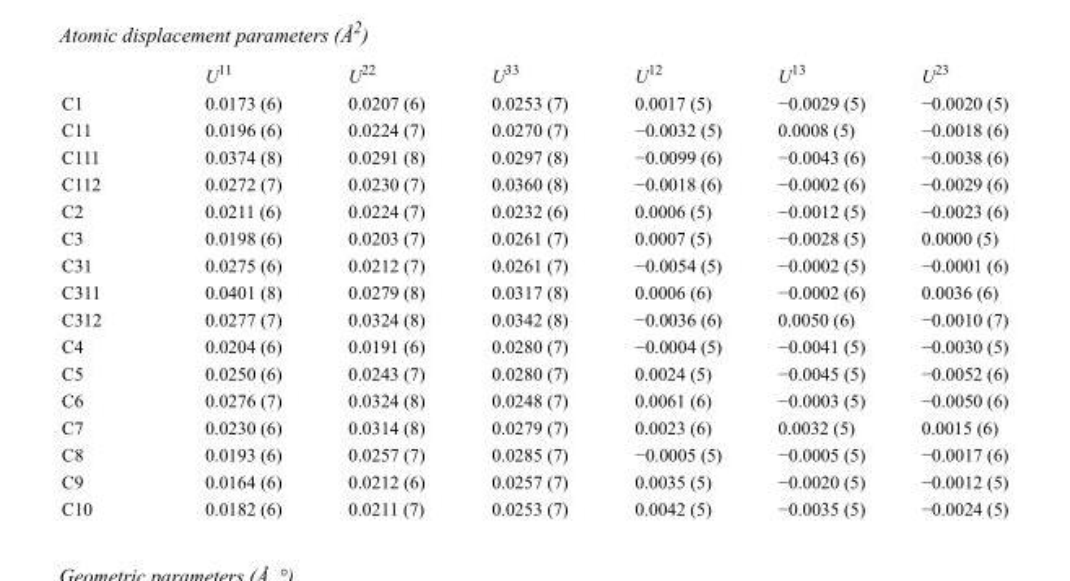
<table><thead><tr><td></td><td>U<sup>11</sup></td><td>U<sup>22</sup></td><td>U<sup>33</sup></td><td>U<sup>12</sup></td><td>U<sup>13</sup></td><td>U<sup>23</sup></td></tr></thead><tbody><tr><td>C1</td><td>0.0173 (6)</td><td>0.0207 (6)</td><td>0.0253 (7)</td><td>0.0017 (5)</td><td>−0.0029 (5)</td><td>−0.0020 (5)</td></tr><tr><td>C11</td><td>0.0196 (6)</td><td>0.0224 (7)</td><td>0.0270 (7)</td><td>−0.0032 (5)</td><td>0.0008 (5)</td><td>−0.0018 (6)</td></tr><tr><td>C111</td><td>0.0374 (8)</td><td>0.0291 (8)</td><td>0.0297 (8)</td><td>−0.0099 (6)</td><td>−0.0043 (6)</td><td>−0.0038 (6)</td></tr><tr><td>C112</td><td>0.0272 (7)</td><td>0.0230 (7)</td><td>0.0360 (8)</td><td>−0.0018 (6)</td><td>−0.0002 (6)</td><td>−0.0029 (6)</td></tr><tr><td>C2</td><td>0.0211 (6)</td><td>0.0224 (7)</td><td>0.0232 (6)</td><td>0.0006 (5)</td><td>−0.0012 (5)</td><td>−0.0023 (6)</td></tr><tr><td>C3</td><td>0.0198 (6)</td><td>0.0203 (7)</td><td>0.0261 (7)</td><td>0.0007 (5)</td><td>−0.0028 (5)</td><td>0.0000 (5)</td></tr><tr><td>C31</td><td>0.0275 (6)</td><td>0.0212 (7)</td><td>0.0261 (7)</td><td>−0.0054 (5)</td><td>−0.0002 (5)</td><td>−0.0001 (6)</td></tr><tr><td>C311</td><td>0.0401 (8)</td><td>0.0279 (8)</td><td>0.0317 (8)</td><td>0.0006 (6)</td><td>−0.0002 (6)</td><td>0.0036 (6)</td></tr><tr><td>C312</td><td>0.0277 (7)</td><td>0.0324 (8)</td><td>0.0342 (8)</td><td>−0.0036 (6)</td><td>0.0050 (6)</td><td>−0.0010 (7)</td></tr><tr><td>C4</td><td>0.0204 (6)</td><td>0.0191 (6)</td><td>0.0280 (7)</td><td>−0.0004 (5)</td><td>−0.0041 (5)</td><td>−0.0030 (5)</td></tr><tr><td>C5</td><td>0.0250 (6)</td><td>0.0243 (7)</td><td>0.0280 (7)</td><td>0.0024 (5)</td><td>−0.0045 (5)</td><td>−0.0052 (6)</td></tr><tr><td>C6</td><td>0.0276 (7)</td><td>0.0324 (8)</td><td>0.0248 (7)</td><td>0.0061 (6)</td><td>−0.0003 (5)</td><td>−0.0050 (6)</td></tr><tr><td>C7</td><td>0.0230 (6)</td><td>0.0314 (8)</td><td>0.0279 (7)</td><td>0.0023 (6)</td><td>0.0032 (5)</td><td>0.0015 (6)</td></tr><tr><td>C8</td><td>0.0193 (6)</td><td>0.0257 (7)</td><td>0.0285 (7)</td><td>−0.0005 (5)</td><td>−0.0005 (5)</td><td>−0.0017 (6)</td></tr><tr><td>C9</td><td>0.0164 (6)</td><td>0.0212 (6)</td><td>0.0257 (7)</td><td>0.0035 (5)</td><td>−0.0020 (5)</td><td>−0.0012 (5)</td></tr><tr><td>C10</td><td>0.0182 (6)</td><td>0.0211 (7)</td><td>0.0253 (7)</td><td>0.0042 (5)</td><td>−0.0035 (5)</td><td>−0.0024 (5)</td></tr></tbody></table>